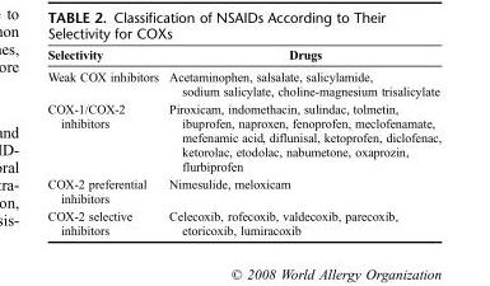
<table><thead><tr><td>Selectivity</td><td>Drugs</td></tr></thead><tbody><tr><td>Weak COX inhibitors</td><td>Acetaminophen, salsalate, salicylamide, sodium salicylate, choline-magnesium trisalicylate</td></tr><tr><td>COX-1/COX-2 inhibitors</td><td>Piroxicam, indomethacin, sulindac, tolmetin, ibuprofen, naproxen, fenoprofen, meclofenamate, mefenamic acid, diflunisal, ketoprofen, diclofenac, ketorolac, etodolac, nabumetone, oxaprozin, flurbiprofen</td></tr><tr><td>COX-2 preferential inhibitors</td><td>Nimesulide, meloxicam</td></tr><tr><td>COX-2 selective inhibitors</td><td>Celecoxib, rofecoxib, valdecoxib, parecoxib, etoricoxib, lumiracoxib</td></tr></tbody></table>